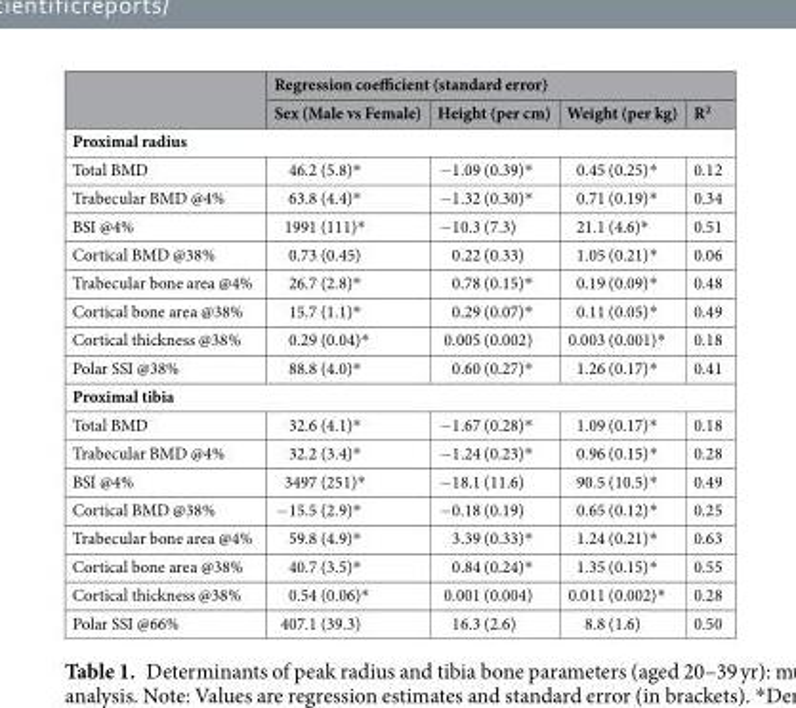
<table><thead><tr><td rowspan="2"></td><td colspan="4">Regression coefficient (standard error)</td></tr><tr><td>Sex (Male vs Female)</td><td>Height (per cm)</td><td>Weight (per kg)</td><td>R<sup>2</sup></td></tr></thead><tbody><tr><td colspan="5">Proximal radius</td></tr><tr><td>Total BMD</td><td>46.2 (5.8)*</td><td>−1.09 (0.39)*</td><td>0.45 (0.25)*</td><td>0.12</td></tr><tr><td>Trabecular BMD @4%</td><td>63.8 (4.4)*</td><td>−1.32 (0.30)*</td><td>0.71 (0.19)*</td><td>0.34</td></tr><tr><td>BSI @4%</td><td>1991 (111)*</td><td>−10.3 (7.3)</td><td>21.1 (4.6)*</td><td>0.51</td></tr><tr><td>Cortical BMD @38%</td><td>0.73 (0.45)</td><td>0.22 (0.33)</td><td>1.05 (0.21)*</td><td>0.06</td></tr><tr><td>Trabecular bone area @4%</td><td>26.7 (2.8)*</td><td>0.78 (0.15)*</td><td>0.19 (0.09)*</td><td>0.48</td></tr><tr><td>Cortical bone area @38%</td><td>15.7 (1.1)*</td><td>0.29 (0.07)*</td><td>0.11 (0.05)*</td><td>0.49</td></tr><tr><td>Cortical thickness @38%</td><td>0.29 (0.04)*</td><td>0.005 (0.002)</td><td>0.003 (0.001)*</td><td>0.18</td></tr><tr><td>Polar SSI @38%</td><td>88.8 (4.0)*</td><td>0.60 (0.27)*</td><td>1.26 (0.17)*</td><td>0.41</td></tr><tr><td colspan="5">Proximal tibia</td></tr><tr><td>Total BMD</td><td>32.6 (4.1)*</td><td>−1.67 (0.28)*</td><td>1.09 (0.17)*</td><td>0.18</td></tr><tr><td>Trabecular BMD @4%</td><td>32.2 (3.4)*</td><td>−1.24 (0.23)*</td><td>0.96 (0.15)*</td><td>0.28</td></tr><tr><td>BSI @4%</td><td>3497 (251)*</td><td>−18.1 (11.6)</td><td>90.5 (10.5)*</td><td>0.49</td></tr><tr><td>Cortical BMD @38%</td><td>−15.5 (2.9)*</td><td>−0.18 (0.19)</td><td>0.65 (0.12)*</td><td>0.25</td></tr><tr><td>Trabecular bone area @4%</td><td>59.8 (4.9)*</td><td>3.39 (0.33)*</td><td>1.24 (0.21)*</td><td>0.63</td></tr><tr><td>Cortical bone area @38%</td><td>40.7 (3.5)*</td><td>0.84 (0.24)*</td><td>1.35 (0.15)*</td><td>0.55</td></tr><tr><td>Cortical thickness @38%</td><td>0.54 (0.06)*</td><td>0.001 (0.004)</td><td>0.011 (0.002)*</td><td>0.28</td></tr><tr><td>Polar SSI @66%</td><td>407.1 (39.3)</td><td>16.3 (2.6)</td><td>8.8 (1.6)</td><td>0.50</td></tr></tbody></table>